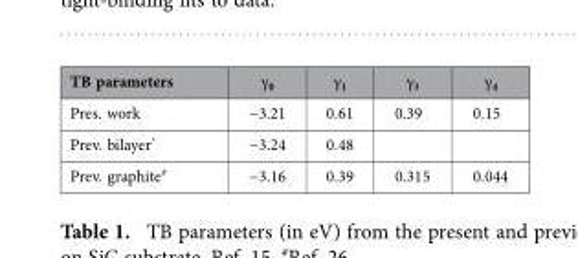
<table><thead><tr><td>TB parameters</td><td>γ<sub>0</sub></td><td>γ<sub>1</sub></td><td>γ<sub>3</sub></td><td>γ<sub>4</sub></td></tr></thead><tbody><tr><td>Pres. work</td><td>−3.21</td><td>0.61</td><td>0.39</td><td>0.15</td></tr><tr><td>Prev. bilayer*</td><td>−3.24</td><td>0.48</td><td></td><td></td></tr><tr><td>Prev. graphite#</td><td>−3.16</td><td>0.39</td><td>0.315</td><td>0.044</td></tr></tbody></table>